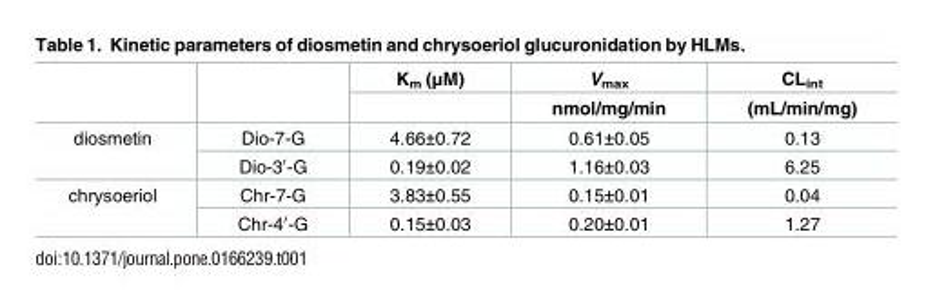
<table><thead><tr><td rowspan="2"></td><td rowspan="2"></td><td rowspan="2">K<sub>m</sub> (μM)</td><td rowspan="2">V<sub>max</sub> nmol/mg/min</td><td rowspan="2">CL<sub>int</sub> (mL/min/mg)</td></tr><tr></tr></thead><tbody><tr><td rowspan="2">diosmetin</td><td>Dio-7-G</td><td>4.66±0.72</td><td>0.61±0.05</td><td>0.13</td></tr><tr><td>Dio-3′-G</td><td>0.19±0.02</td><td>1.16±0.03</td><td>6.25</td></tr><tr><td rowspan="2">chrysoeriol</td><td>Chr-7-G</td><td>3.83±0.55</td><td>0.15±0.01</td><td>0.04</td></tr><tr><td>Chr-4′-G</td><td>0.15±0.03</td><td>0.20±0.01</td><td>1.27</td></tr></tbody></table>